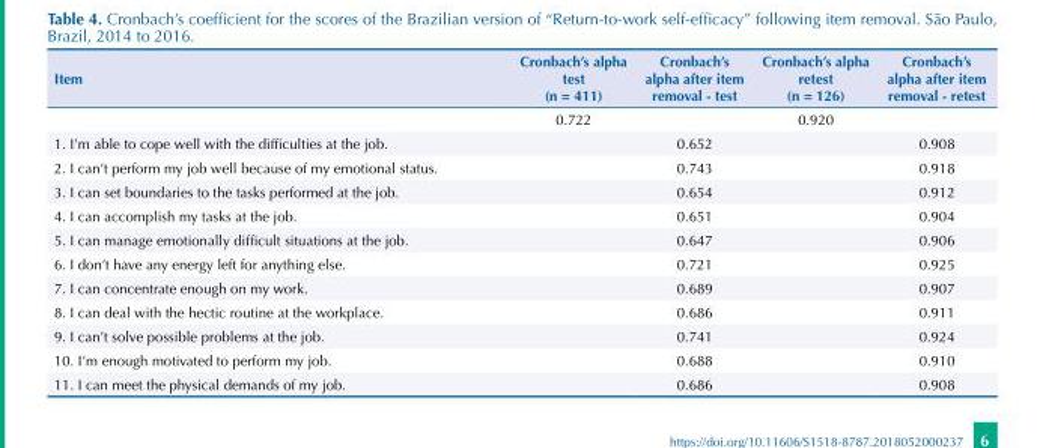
<table><thead><tr><td>Item</td><td>Cronbach’s alpha test (n = 411)</td><td>Cronbach’s alpha after item removal - test</td><td>Cronbach’s alpha retest (n = 126)</td><td>Cronbach’s alpha after item removal - retest</td></tr></thead><tbody><tr><td></td><td>0.722</td><td></td><td>0.920</td><td></td></tr><tr><td>1. I’m able to cope well with the difficulties at the job.</td><td></td><td>0.652</td><td></td><td>0.908</td></tr><tr><td>2. I can’t perform my job well because of my emotional status.</td><td></td><td>0.743</td><td></td><td>0.918</td></tr><tr><td>3. I can set boundaries to the tasks performed at the job.</td><td></td><td>0.654</td><td></td><td>0.912</td></tr><tr><td>4. I can accomplish my tasks at the job.</td><td></td><td>0.651</td><td></td><td>0.904</td></tr><tr><td>5. I can manage emotionally difficult situations at the job.</td><td></td><td>0.647</td><td></td><td>0.906</td></tr><tr><td>6. I don’t have any energy left for anything else.</td><td></td><td>0.721</td><td></td><td>0.925</td></tr><tr><td>7. I can concentrate enough on my work.</td><td></td><td>0.689</td><td></td><td>0.907</td></tr><tr><td>8. I can deal with the hectic routine at the workplace.</td><td></td><td>0.686</td><td></td><td>0.911</td></tr><tr><td>9. I can’t solve possible problems at the job.</td><td></td><td>0.741</td><td></td><td>0.924</td></tr><tr><td>10. I’m enough motivated to perform my job.</td><td></td><td>0.688</td><td></td><td>0.910</td></tr><tr><td>11. I can meet the physical demands of my job.</td><td></td><td>0.686</td><td></td><td>0.908</td></tr></tbody></table>